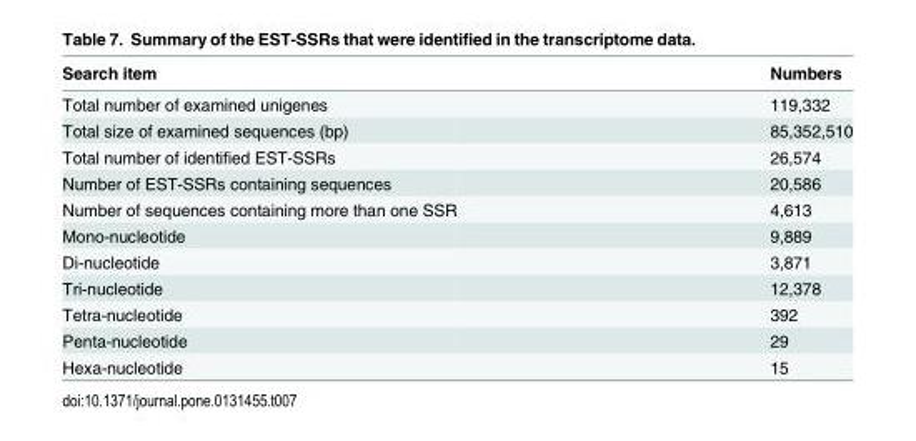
<table><thead><tr><td>Search item</td><td>Numbers</td></tr></thead><tbody><tr><td>Total number of examined unigenes</td><td>119,332</td></tr><tr><td>Total size of examined sequences (bp)</td><td>85,352,510</td></tr><tr><td>Total number of identified EST-SSRs</td><td>26,574</td></tr><tr><td>Number of EST-SSRs containing sequences</td><td>20,586</td></tr><tr><td>Number of sequences containing more than one SSR</td><td>4,613</td></tr><tr><td>Mono-nucleotide</td><td>9,889</td></tr><tr><td>Di-nucleotide</td><td>3,871</td></tr><tr><td>Tri-nucleotide</td><td>12,378</td></tr><tr><td>Tetra-nucleotide</td><td>392</td></tr><tr><td>Penta-nucleotide</td><td>29</td></tr><tr><td>Hexa-nucleotide</td><td>15</td></tr></tbody></table>